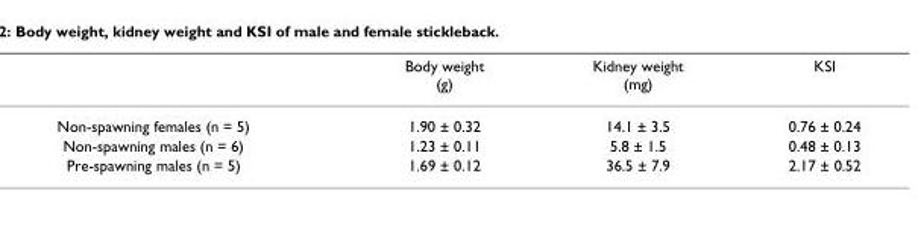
<table><thead><tr><td></td><td>Body weight (g)</td><td>Kidney weight (mg)</td><td>KSI</td></tr></thead><tbody><tr><td>Non-spawning females (n = 5)</td><td>1.90 ± 0.32</td><td>14.1 ± 3.5</td><td>0.76 ± 0.24</td></tr><tr><td>Non-spawning males (n = 6)</td><td>1.23 ± 0.11</td><td>5.8 ± 1.5</td><td>0.48 ± 0.13</td></tr><tr><td>Pre-spawning males (n = 5)</td><td>1.69 ± 0.12</td><td>36.5 ± 7.9</td><td>2.17 ± 0.52</td></tr></tbody></table>